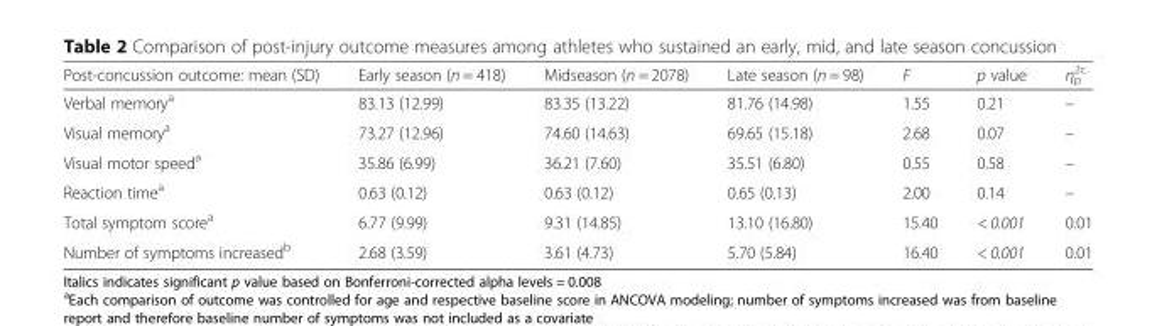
<table><thead><tr><td>Post-concussion outcome: mean (SD)</td><td>Early season (n = 418)</td><td>Midseason (n = 2078)</td><td>Late season (n = 98)</td><td>F</td><td>p value</td><td>η<sub>p</sub> <sup>2c</sup></td></tr></thead><tbody><tr><td>Verbal memory<sup>a</sup></td><td>83.13 (12.99)</td><td>83.35 (13.22)</td><td>81.76 (14.98)</td><td>1.55</td><td>0.21</td><td>–</td></tr><tr><td>Visual memory<sup>a</sup></td><td>73.27 (12.96)</td><td>74.60 (14.63)</td><td>69.65 (15.18)</td><td>2.68</td><td>0.07</td><td>–</td></tr><tr><td>Visual motor speed<sup>a</sup></td><td>35.86 (6.99)</td><td>36.21 (7.60)</td><td>35.51 (6.80)</td><td>0.55</td><td>0.58</td><td>–</td></tr><tr><td>Reaction time<sup>a</sup></td><td>0.63 (0.12)</td><td>0.63 (0.12)</td><td>0.65 (0.13)</td><td>2.00</td><td>0.14</td><td>–</td></tr><tr><td>Total symptom score<sup>a</sup></td><td>6.77 (9.99)</td><td>9.31 (14.85)</td><td>13.10 (16.80)</td><td>15.40</td><td>&lt; 0.001</td><td>0.01</td></tr><tr><td>Number of symptoms increased<sup>b</sup></td><td>2.68 (3.59)</td><td>3.61 (4.73)</td><td>5.70 (5.84)</td><td>16.40</td><td>&lt; 0.001</td><td>0.01</td></tr></tbody></table>